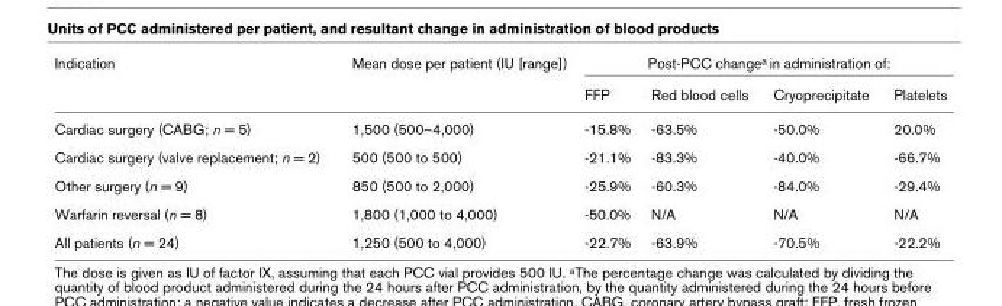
<table><thead><tr><td rowspan="2">Indication</td><td rowspan="2">Mean dose per patient (IU [range])</td><td colspan="4">Post-PCC change<sup>a</sup> in administration of:</td></tr><tr><td>FFP</td><td>Red blood cells</td><td>Cryoprecipitate</td><td>Platelets</td></tr></thead><tbody><tr><td>Cardiac surgery (CABG; n = 5)</td><td>1,500 (500–4,000)</td><td>-15.8%</td><td>-63.5%</td><td>-50.0%</td><td>20.0%</td></tr><tr><td>Cardiac surgery (valve replacement; n = 2)</td><td>500 (500 to 500)</td><td>-21.1%</td><td>-83.3%</td><td>-40.0%</td><td>-66.7%</td></tr><tr><td>Other surgery (n = 9)</td><td>850 (500 to 2,000)</td><td>-25.9%</td><td>-60.3%</td><td>-84.0%</td><td>-29.4%</td></tr><tr><td>Warfarin reversal (n = 8)</td><td>1,800 (1,000 to 4,000)</td><td>-50.0%</td><td>N/A</td><td>N/A</td><td>N/A</td></tr><tr><td>All patients (n = 24)</td><td>1,250 (500 to 4,000)</td><td>-22.7%</td><td>-63.9%</td><td>-70.5%</td><td>-22.2%</td></tr></tbody></table>